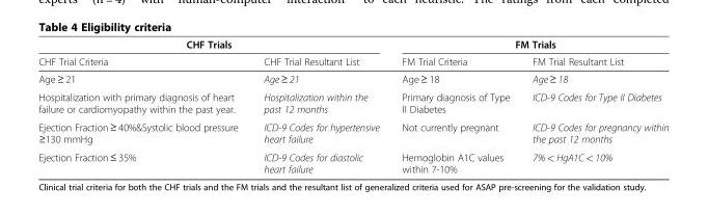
<table><thead><tr><td colspan="2">CHF Trials</td><td colspan="2">FM Trials</td></tr><tr><td>CHF Trial Criteria</td><td>CHF Trial Resultant List</td><td>FM Trial Criteria</td><td>FM Trial Resultant List</td></tr></thead><tbody><tr><td>Age ≥ 21</td><td>Age ≥ 21</td><td>Age ≥ 18</td><td>Age ≥ 18</td></tr><tr><td>Hospitalization with primary diagnosis of heart failure or cardiomyopathy within the past year.</td><td>Hospitalization within the past 12 months</td><td>Primary diagnosis of Type II Diabetes</td><td>ICD-9 Codes for Type II Diabetes</td></tr><tr><td>Ejection Fraction ≥ 40%&amp;Systolic blood pressure ≥130 mmHg</td><td>ICD-9 Codes for hypertensive heart failure</td><td>Not currently pregnant</td><td>ICD-9 Codes for pregnancy within the past 12 months</td></tr><tr><td>Ejection Fraction ≤ 35%</td><td>ICD-9 Codes for diastolic heart failure</td><td>Hemoglobin A1C values within 7-10%</td><td>7% &lt; HgA1C &lt; 10%</td></tr></tbody></table>